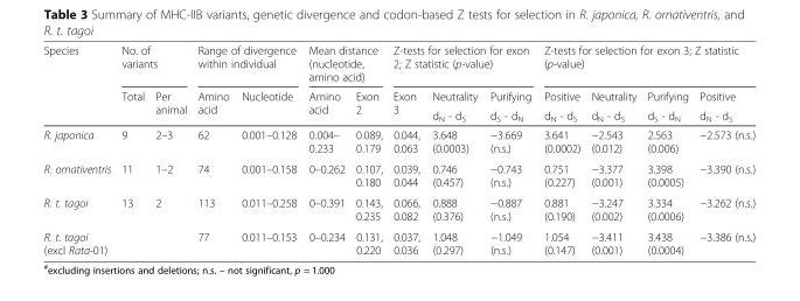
<table><thead><tr><td rowspan="3">Species</td><td colspan="2">No. of variants</td><td colspan="2">Range of divergence within individual</td><td colspan="2">Mean distance (nucleotide, amino acid)</td><td colspan="3">Z-tests for selection for exon 2; Z statistic (p-value)</td><td colspan="4">Z-tests for selection for exon 3; Z statistic (p-value)</td></tr><tr><td rowspan="2">Total</td><td rowspan="2">Per animal</td><td rowspan="2">Amino acid</td><td rowspan="2">Nucleotide</td><td rowspan="2">Amino acid</td><td rowspan="2">Exon 2</td><td rowspan="2">Exon 3</td><td rowspan="2">Neutrality d<sub>N</sub> - d<sub>S</sub></td><td rowspan="2">Purifying d<sub>S</sub> - d<sub>N</sub></td><td rowspan="2">Positive d<sub>N</sub> - d<sub>S</sub></td><td rowspan="2">Neutrality d<sub>N</sub> - d<sub>S</sub></td><td rowspan="2">Purifying d<sub>S</sub> - d<sub>N</sub></td><td rowspan="2">Positive d<sub>N</sub> - d<sub>S</sub></td></tr><tr></tr></thead><tbody><tr><td>R. japonica</td><td>9</td><td>2–3</td><td>62</td><td>0.001–0.128</td><td>0.004– 0.233</td><td>0.089, 0.179</td><td>0.044, 0.063</td><td>3.648 (0.0003)</td><td>−3.669 (n.s.)</td><td>3.641 (0.0002)</td><td>−2.543 (0.012)</td><td>2.563 (0.006)</td><td>−2.573 (n.s.)</td></tr><tr><td>R. ornativentris</td><td>11</td><td>1–2</td><td>74</td><td>0.001–0.158</td><td>0–0.262</td><td>0.107, 0.180</td><td>0.039, 0.044</td><td>0.746 (0.457)</td><td>−0.743 (n.s.)</td><td>0.751 (0.227)</td><td>−3.377 (0.001)</td><td>3.398 (0.0005)</td><td>−3.390 (n.s.)</td></tr><tr><td>R. t. tagoi</td><td>13</td><td>2</td><td>113</td><td>0.011–0.258</td><td>0–0.391</td><td>0.143, 0.235</td><td>0.066, 0.082</td><td>0.888 (0.376)</td><td>−0.887 (n.s.)</td><td>0.881 (0.190)</td><td>−3.247 (0.002)</td><td>3.334 (0.0006)</td><td>−3.262 (n.s.)</td></tr><tr><td>R. t. tagoi (excl Rata-01)</td><td></td><td></td><td>77</td><td>0.011–0.153</td><td>0–0.234</td><td>0.131, 0.220</td><td>0.037, 0.036</td><td>1.048 (0.297)</td><td>−1.049 (n.s.)</td><td>1.054 (0.147)</td><td>−3.411 (0.001)</td><td>3.438 (0.0004)</td><td>−3.386 (n.s.)</td></tr></tbody></table>